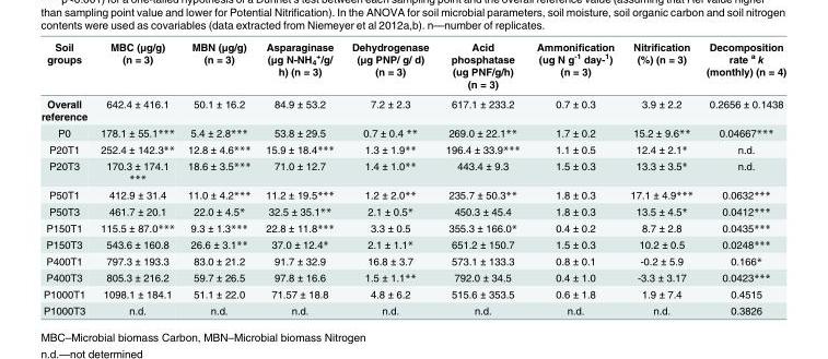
<table><thead><tr><td>Soil groups</td><td>MBC (μg/g) (n = 3)</td><td>MBN (μg/g) (n = 3)</td><td>Asparaginase (μg N-NH<sub>4</sub> <sup>+</sup>/g/ h) (n = 3)</td><td>Dehydrogenase (μg PNP/ g/ d) (n = 3)</td><td>Acid phosphatase (ug PNF/g/h) (n = 3)</td><td>Ammonification (ug N g<sup>-1</sup> day-<sup>1</sup>) (n = 3)</td><td>Nitrification (%) (n = 3)</td><td>Decomposition rate <sup>a</sup> k (monthly) (n = 4)</td></tr></thead><tbody><tr><td>Overall reference</td><td>642.4 ± 416.1</td><td>50.1 ± 16.2</td><td>84.9 ± 53.2</td><td>7.2 ± 2.3</td><td>617.1 ± 233.2</td><td>0.7 ± 0.3</td><td>3.9 ± 2.2</td><td>0.2656 ± 0.1438</td></tr><tr><td>P0</td><td>178.1 ± 55.1***</td><td>5.4 ± 2.8***</td><td>53.8 ± 29.5</td><td>0.7 ± 0.4 **</td><td>269.0 ± 22.1**</td><td>1.7 ± 0.2</td><td>15.2 ± 9.6**</td><td>0.04667***</td></tr><tr><td>P20T1</td><td>252.4 ± 142.3**</td><td>12.8 ± 4.6***</td><td>15.9 ± 18.4***</td><td>1.3 ± 1.9**</td><td>196.4 ± 33.9***</td><td>1.1 ± 0.5</td><td>12.4 ± 2.1*</td><td>n.d.</td></tr><tr><td>P20T3</td><td>170.3 ± 174.1 ***</td><td>18.6 ± 3.5***</td><td>71.0 ± 12.7</td><td>1.4 ± 1.0**</td><td>443.4 ± 9.3</td><td>1.5 ± 0.3</td><td>13.3 ± 3.5*</td><td>n.d.</td></tr><tr><td>P50T1</td><td>412.9 ± 31.4</td><td>11.0 ± 4.2***</td><td>11.2 ± 19.5***</td><td>1.2 ± 2.0**</td><td>235.7 ± 50.3**</td><td>1.8 ± 0.3</td><td>17.1 ± 4.9***</td><td>0.0632***</td></tr><tr><td>P50T3</td><td>461.7 ± 20.1</td><td>22.0 ± 4.5*</td><td>32.5 ± 35.1**</td><td>2.1 ± 0.5*</td><td>450.3 ± 45.4</td><td>1.8 ± 0.3</td><td>13.5 ± 4.5*</td><td>0.0412***</td></tr><tr><td>P150T1</td><td>115.5 ± 87.0***</td><td>9.3 ± 1.3***</td><td>22.8 ± 11.8***</td><td>3.3 ± 0.5</td><td>355.3 ± 166.0*</td><td>0.4 ± 0.2</td><td>8.7 ± 2.8</td><td>0.0435***</td></tr><tr><td>P150T3</td><td>543.6 ± 160.8</td><td>26.6 ± 3.1**</td><td>37.0 ± 12.4*</td><td>2.1 ± 1.1*</td><td>651.2 ± 150.7</td><td>1.5 ± 0.3</td><td>10.2 ± 0.5</td><td>0.0248***</td></tr><tr><td>P400T1</td><td>797.3 ± 193.3</td><td>83.0 ± 21.2</td><td>91.7 ± 32.9</td><td>16.8 ± 3.7</td><td>573.1 ± 133.3</td><td>0.8 ± 0.1</td><td>-0.2 ± 5.9</td><td>0.166*</td></tr><tr><td>P400T3</td><td>805.3 ± 216.2</td><td>59.7 ± 26.5</td><td>97.8 ± 16.6</td><td>1.5 ± 1.1**</td><td>792.0 ± 34.5</td><td>0.4 ± 1.0</td><td>-3.3 ± 3.17</td><td>0.0423***</td></tr><tr><td>P1000T1</td><td>1098.1 ± 184.1</td><td>51.1 ± 22.0</td><td>71.57 ± 18.8</td><td>4.8 ± 6.2</td><td>515.6 ± 353.5</td><td>0.6 ± 1.8</td><td>1.9 ± 7.4</td><td>0.4515</td></tr><tr><td>P1000T3</td><td>n.d.</td><td>n.d.</td><td>n.d.</td><td>n.d.</td><td>n.d.</td><td>n.d.</td><td>n.d.</td><td>0.3826</td></tr></tbody></table>